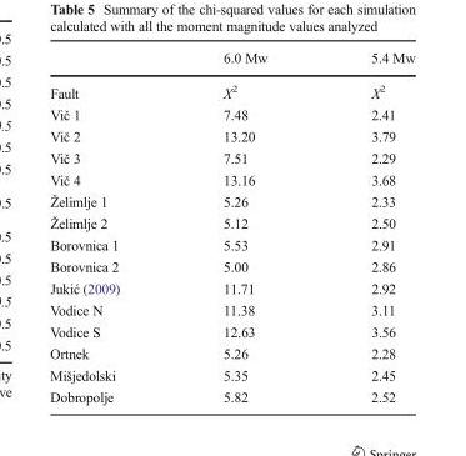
<table><thead><tr><td></td><td>6.0 Mw</td><td>5.4 Mw</td></tr></thead><tbody><tr><td>Fault</td><td>X<sup>2</sup></td><td>X<sup>2</sup></td></tr><tr><td>Vič 1</td><td>7.48</td><td>2.41</td></tr><tr><td>Vič 2</td><td>13.20</td><td>3.79</td></tr><tr><td>Vič 3</td><td>7.51</td><td>2.29</td></tr><tr><td>Vič 4</td><td>13.16</td><td>3.68</td></tr><tr><td>Želimlje 1</td><td>5.26</td><td>2.33</td></tr><tr><td>Želimlje 2</td><td>5.12</td><td>2.50</td></tr><tr><td>Borovnica 1</td><td>5.53</td><td>2.91</td></tr><tr><td>Borovnica 2</td><td>5.00</td><td>2.86</td></tr><tr><td>Jukić (2009)</td><td>11.71</td><td>2.92</td></tr><tr><td>Vodice N</td><td>11.38</td><td>3.11</td></tr><tr><td>Vodice S</td><td>12.63</td><td>3.56</td></tr><tr><td>Ortnek</td><td>5.26</td><td>2.28</td></tr><tr><td>Mišjedolski</td><td>5.35</td><td>2.45</td></tr><tr><td>Dobropolje</td><td>5.82</td><td>2.52</td></tr></tbody></table>